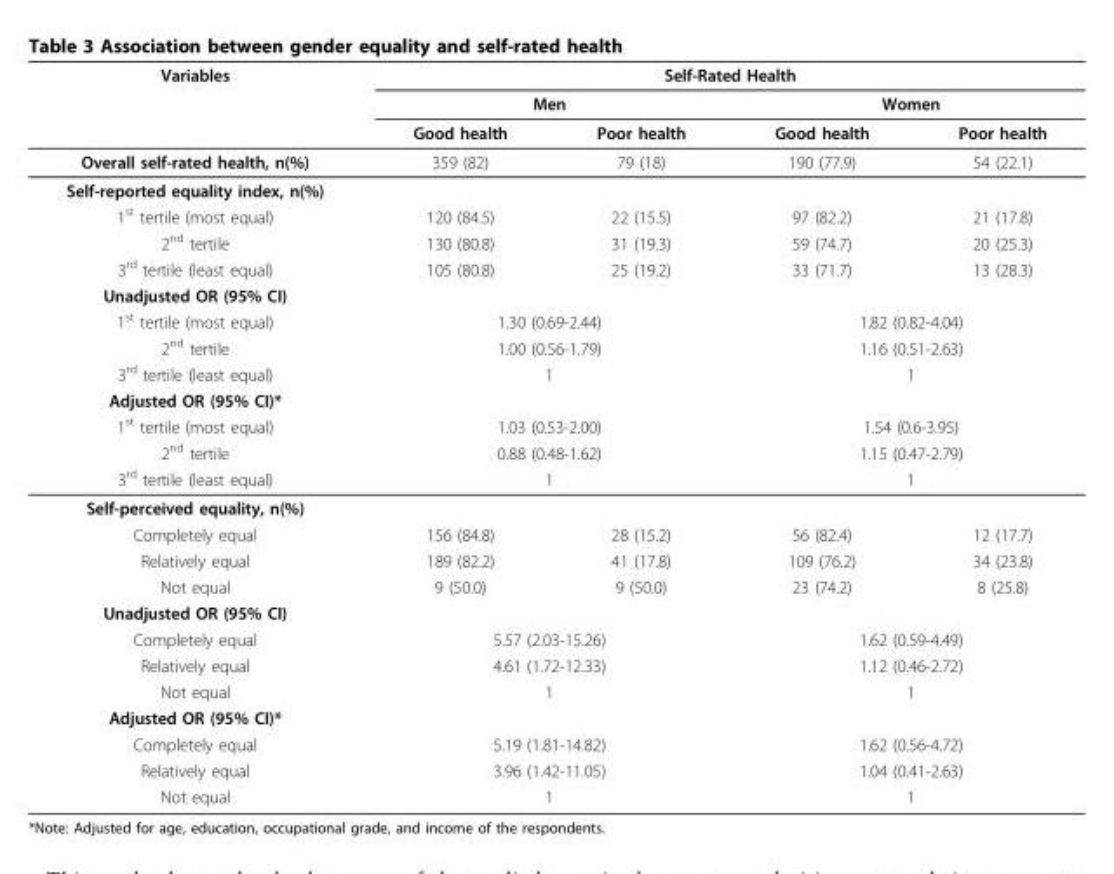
<table><thead><tr><td rowspan="3">Variables</td><td colspan="4">Self-Rated Health</td></tr><tr><td colspan="2">Men</td><td colspan="2">Women</td></tr><tr><td>Good health</td><td>Poor health</td><td>Good health</td><td>Poor health</td></tr></thead><tbody><tr><td>Overall self-rated health, n(%)</td><td>359 (82)</td><td>79 (18)</td><td>190 (77.9)</td><td>54 (22.1)</td></tr><tr><td colspan="5">Self-reported equality index, n(%)</td></tr><tr><td>1<sup>st</sup> tertile (most equal)</td><td>120 (84.5)</td><td>22 (15.5)</td><td>97 (82.2)</td><td>21 (17.8)</td></tr><tr><td>2<sup>nd</sup> tertile</td><td>130 (80.8)</td><td>31 (19.3)</td><td>59 (74.7)</td><td>20 (25.3)</td></tr><tr><td>3<sup>rd</sup> tertile (least equal)</td><td>105 (80.8)</td><td>25 (19.2)</td><td>33 (71.7)</td><td>13 (28.3)</td></tr><tr><td colspan="5">Unadjusted OR (95% CI)</td></tr><tr><td>1<sup>st</sup> tertile (most equal)</td><td colspan="2">1.30 (0.69-2.44)</td><td colspan="2">1.82 (0.82-4.04)</td></tr><tr><td>2<sup>nd</sup> tertile</td><td colspan="2">1.00 (0.56-1.79)</td><td colspan="2">1.16 (0.51-2.63)</td></tr><tr><td>3<sup>rd</sup> tertile (least equal)</td><td colspan="2">1</td><td colspan="2">1</td></tr><tr><td colspan="5">Adjusted OR (95% CI)*</td></tr><tr><td>1<sup>st</sup> tertile (most equal)</td><td colspan="2">1.03 (0.53-2.00)</td><td colspan="2">1.54 (0.6-3.95)</td></tr><tr><td>2<sup>nd</sup> tertile</td><td colspan="2">0.88 (0.48-1.62)</td><td colspan="2">1.15 (0.47-2.79)</td></tr><tr><td>3<sup>rd</sup> tertile (least equal)</td><td colspan="2">1</td><td colspan="2">1</td></tr><tr><td colspan="5">Self-perceived equality, n(%)</td></tr><tr><td>Completely equal</td><td>156 (84.8)</td><td>28 (15.2)</td><td>56 (82.4)</td><td>12 (17.7)</td></tr><tr><td>Relatively equal</td><td>189 (82.2)</td><td>41 (17.8)</td><td>109 (76.2)</td><td>34 (23.8)</td></tr><tr><td>Not equal</td><td>9 (50.0)</td><td>9 (50.0)</td><td>23 (74.2)</td><td>8 (25.8)</td></tr><tr><td colspan="5">Unadjusted OR (95% CI)</td></tr><tr><td>Completely equal</td><td colspan="2">5.57 (2.03-15.26)</td><td colspan="2">1.62 (0.59-4.49)</td></tr><tr><td>Relatively equal</td><td colspan="2">4.61 (1.72-12.33)</td><td colspan="2">1.12 (0.46-2.72)</td></tr><tr><td>Not equal</td><td colspan="2">1</td><td colspan="2">1</td></tr><tr><td colspan="5">Adjusted OR (95% CI)*</td></tr><tr><td>Completely equal</td><td colspan="2">5.19 (1.81-14.82)</td><td colspan="2">1.62 (0.56-4.72)</td></tr><tr><td>Relatively equal</td><td colspan="2">3.96 (1.42-11.05)</td><td colspan="2">1.04 (0.41-2.63)</td></tr><tr><td>Not equal</td><td colspan="2">1</td><td colspan="2">1</td></tr></tbody></table>